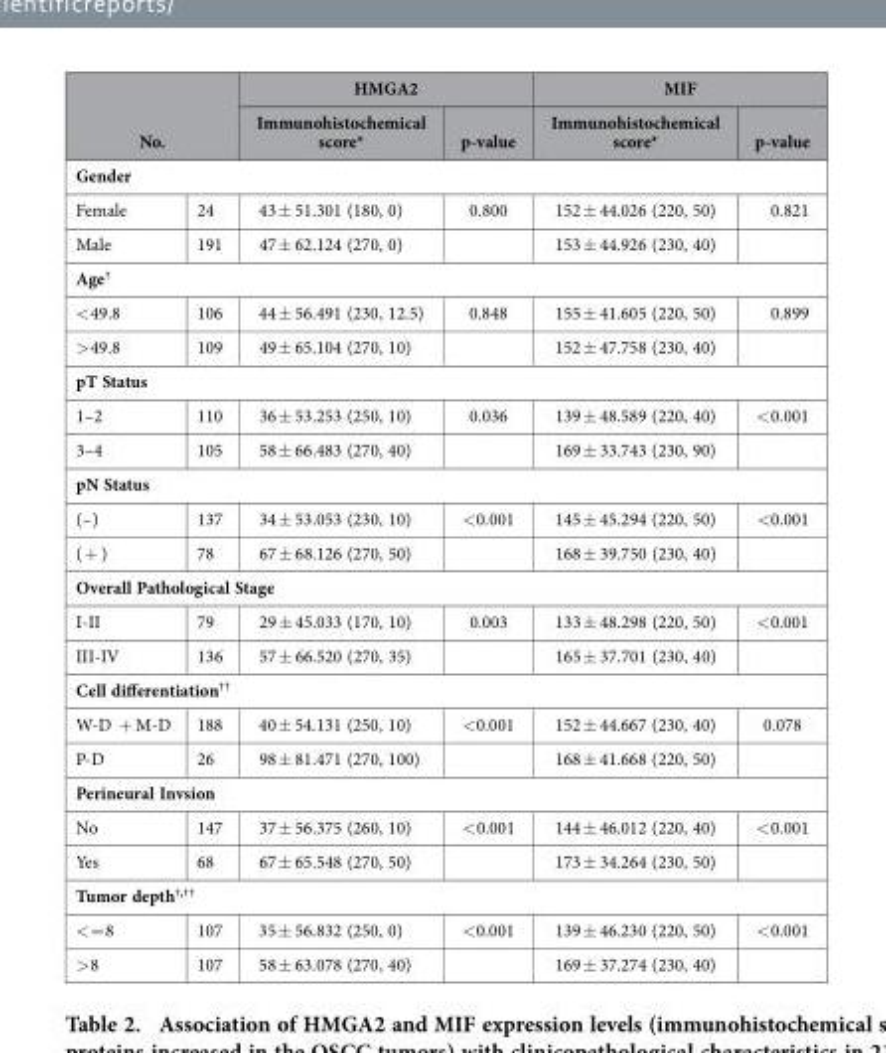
<table><thead><tr><td rowspan="2" colspan="2">No.</td><td colspan="2">HMGA2</td><td colspan="2">MIF</td></tr><tr><td>Immunohistochemical score*</td><td>p-value</td><td>Immunohistochemical score*</td><td>p-value</td></tr><tr><td colspan="6">Gender</td></tr><tr><td>Female</td><td>24</td><td>43 ± 51.301 (180, 0)</td><td>0.800</td><td>152 ± 44.026 (220, 50)</td><td>0.821</td></tr></thead><tbody><tr><td>Male</td><td>191</td><td>47 ± 62.124 (270, 0)</td><td></td><td>153 ± 44.926 (230, 40)</td><td></td></tr><tr><td colspan="6">Age†</td></tr><tr><td>&lt; 49.8</td><td>106</td><td>44 ± 56.491 (230, 12.5)</td><td>0.848</td><td>155 ± 41.605 (220, 50)</td><td>0.899</td></tr><tr><td>&gt; 49.8</td><td>109</td><td>49 ± 65.104 (270, 10)</td><td></td><td>152 ± 47.758 (230, 40)</td><td></td></tr><tr><td colspan="6">pT Status</td></tr><tr><td>1–2</td><td>110</td><td>36 ± 53.253 (250, 10)</td><td>0.036</td><td>139 ± 48.589 (220, 40)</td><td>&lt; 0.001</td></tr><tr><td>3–4</td><td>105</td><td>58 ± 66.483 (270, 40)</td><td></td><td>169 ± 33.743 (230, 90)</td><td></td></tr><tr><td colspan="6">pN Status</td></tr><tr><td>(– )</td><td>137</td><td>34 ± 53.053 (230, 10)</td><td>&lt;0.001</td><td>145 ± 45.294 (220, 50)</td><td>&lt;0.001</td></tr><tr><td>( + )</td><td>78</td><td>67 ± 68.126 (270, 50)</td><td></td><td>168 ± 39.750 (230, 40)</td><td></td></tr><tr><td colspan="6">Overall Pathological Stage</td></tr><tr><td>I-II</td><td>79</td><td>29 ± 45.033 (170, 10)</td><td>0.003</td><td>133 ± 48.298 (220, 50)</td><td>&lt;0.001</td></tr><tr><td>III-IV</td><td>136</td><td>57 ± 66.520 (270, 35)</td><td></td><td>165 ± 37.701 (230, 40)</td><td></td></tr><tr><td colspan="6">Cell differentiation††</td></tr><tr><td>W-D + M-D</td><td>188</td><td>40 ± 54.131 (250, 10)</td><td>&lt;0.001</td><td>152 ± 44.667 (230, 40)</td><td>0.078</td></tr><tr><td>P-D</td><td>26</td><td>98 ± 81.471 (270, 100)</td><td></td><td>168 ± 41.668 (220, 50)</td><td></td></tr><tr><td colspan="6">Perineural Invsion</td></tr><tr><td>No</td><td>147</td><td>37 ± 56.375 (260, 10)</td><td>&lt; 0.001</td><td>144 ± 46.012 (220, 40)</td><td>&lt; 0.001</td></tr><tr><td>Yes</td><td>68</td><td>67 ± 65.548 (270, 50)</td><td></td><td>173 ± 34.264 (230, 50)</td><td></td></tr><tr><td colspan="6">Tumor depth†,††</td></tr><tr><td>&lt; = 8</td><td>107</td><td>35 ± 56.832 (250, 0)</td><td>&lt;0.001</td><td>139 ± 46.230 (220, 50)</td><td>&lt; 0.001</td></tr><tr><td>&gt; 8</td><td>107</td><td>58 ± 63.078 (270, 40)</td><td></td><td>169 ± 37.274 (230, 40)</td><td></td></tr></tbody></table>